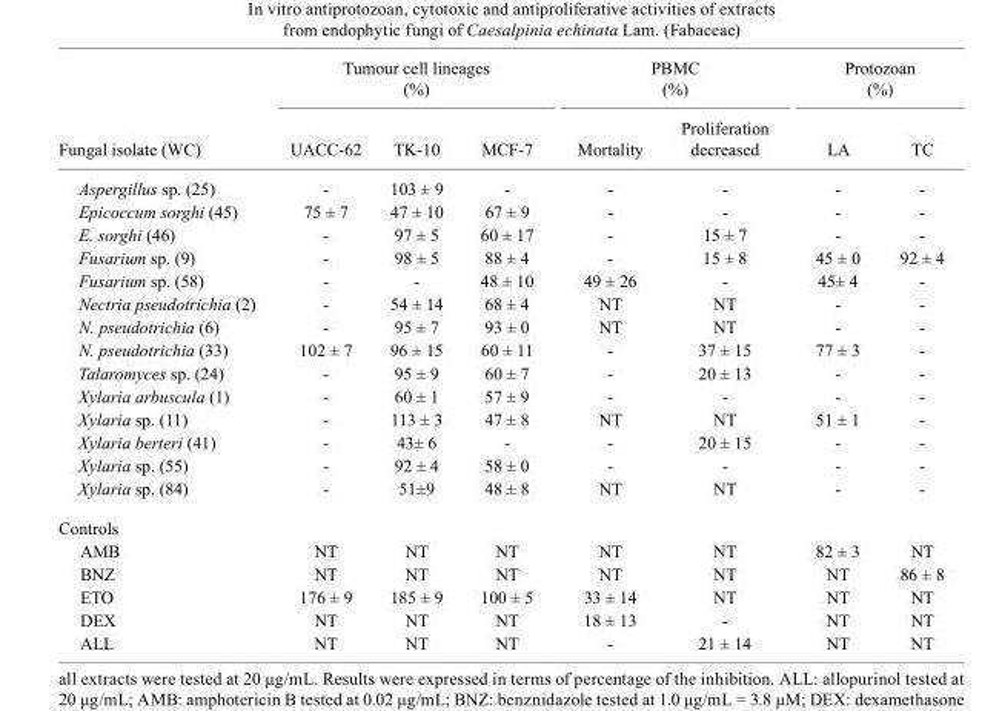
<table><thead><tr><td rowspan="2">Fungal isolate (WC)</td><td colspan="3">Tumour cell lineages (%)</td><td colspan="2">PBMC (%)</td><td colspan="2">Protozoan (%)</td></tr><tr><td>UACC-62</td><td>TK-10</td><td>MCF-7</td><td>Mortality</td><td>Proliferation decreased</td><td>LA</td><td>TC</td></tr></thead><tbody><tr><td>Aspergillus sp. (25)</td><td>-</td><td>103 ± 9</td><td>-</td><td>-</td><td>-</td><td>-</td><td>-</td></tr><tr><td>Epicoccum sorghi (45)</td><td>75 ± 7</td><td>47 ± 10</td><td>67 ± 9</td><td>-</td><td>-</td><td>-</td><td>-</td></tr><tr><td>E. sorghi (46)</td><td>-</td><td>97 ± 5</td><td>60 ± 17</td><td>-</td><td>15 ± 7</td><td>-</td><td>-</td></tr><tr><td>Fusarium sp. (9)</td><td>-</td><td>98 ± 5</td><td>88 ± 4</td><td>-</td><td>15 ± 8</td><td>45 ± 0</td><td>92 ± 4</td></tr><tr><td>Fusarium sp. (58)</td><td>-</td><td>-</td><td>48 ± 10</td><td>49 ± 26</td><td>-</td><td>45± 4</td><td>-</td></tr><tr><td>Nectria pseudotrichia (2)</td><td>-</td><td>54 ± 14</td><td>68 ± 4</td><td>NT</td><td>NT</td><td>-</td><td>-</td></tr><tr><td>N. pseudotrichia (6)</td><td>-</td><td>95 ± 7</td><td>93 ± 0</td><td>NT</td><td>NT</td><td>-</td><td>-</td></tr><tr><td>N. pseudotrichia (33)</td><td>102 ± 7</td><td>96 ± 15</td><td>60 ± 11</td><td>-</td><td>37 ± 15</td><td>77 ± 3</td><td>-</td></tr><tr><td>Talaromyces sp. (24)</td><td>-</td><td>95 ± 9</td><td>60 ± 7</td><td>-</td><td>20 ± 13</td><td>-</td><td>-</td></tr><tr><td>Xylaria arbuscula (1)</td><td>-</td><td>60 ± 1</td><td>57 ± 9</td><td>-</td><td>-</td><td>-</td><td>-</td></tr><tr><td>Xylaria sp. (11)</td><td>-</td><td>113 ± 3</td><td>47 ± 8</td><td>NT</td><td>NT</td><td>51 ± 1</td><td>-</td></tr><tr><td>Xylaria berteri (41)</td><td>-</td><td>43± 6</td><td>-</td><td>-</td><td>20 ± 15</td><td>-</td><td>-</td></tr><tr><td>Xylaria sp. (55)</td><td>-</td><td>92 ± 4</td><td>58 ± 0</td><td>-</td><td>-</td><td>-</td><td>-</td></tr><tr><td>Xylaria sp. (84)</td><td>-</td><td>51±9</td><td>48 ± 8</td><td>NT</td><td>NT</td><td>-</td><td>-</td></tr><tr><td colspan="8">Controls</td></tr><tr><td>AMB</td><td>NT</td><td>NT</td><td>NT</td><td>NT</td><td>NT</td><td>82 ± 3</td><td>NT</td></tr><tr><td>BNZ</td><td>NT</td><td>NT</td><td>NT</td><td>NT</td><td>NT</td><td>NT</td><td>86 ± 8</td></tr><tr><td>ETO</td><td>176 ± 9</td><td>185 ± 9</td><td>100 ± 5</td><td>33 ± 14</td><td>NT</td><td>NT</td><td>NT</td></tr><tr><td>DEX</td><td>NT</td><td>NT</td><td>NT</td><td>18 ± 13</td><td>-</td><td>NT</td><td>NT</td></tr><tr><td>ALL</td><td>NT</td><td>NT</td><td>NT</td><td>-</td><td>21 ± 14</td><td>NT</td><td>NT</td></tr></tbody></table>